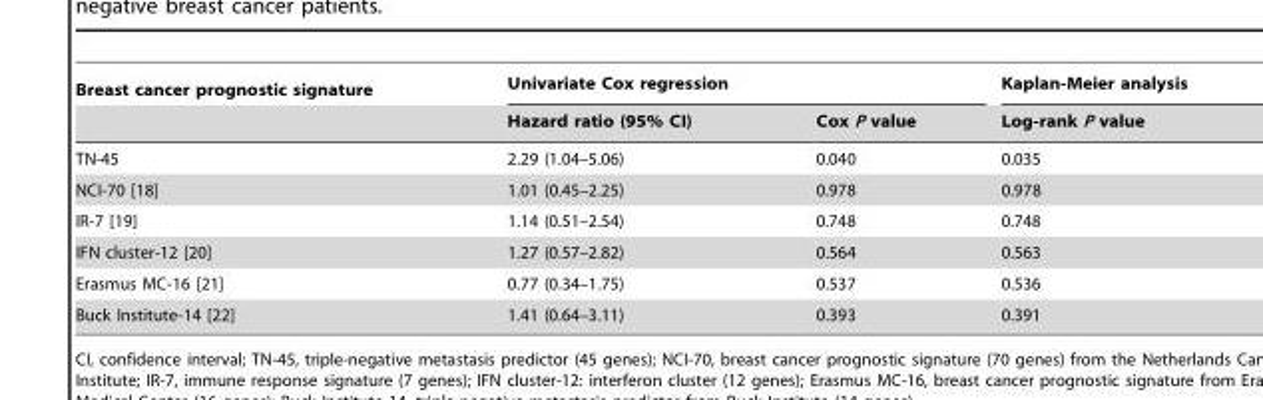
<table><thead><tr><td rowspan="2">Breast cancer prognostic signature</td><td colspan="2">Univariate Cox regression</td><td rowspan="2">Kaplan-Meier analysis Log-rank P value</td></tr><tr><td>Hazard ratio (95% CI)</td><td>Cox P value</td></tr></thead><tbody><tr><td>TN-45</td><td>2.29 (1.04–5.06)</td><td>0.040</td><td>0.035</td></tr><tr><td>NCI-70 [18]</td><td>1.01 (0.45–2.25)</td><td>0.978</td><td>0.978</td></tr><tr><td>IR-7 [19]</td><td>1.14 (0.51–2.54)</td><td>0.748</td><td>0.748</td></tr><tr><td>IFN cluster-12 [20]</td><td>1.27 (0.57–2.82)</td><td>0.564</td><td>0.563</td></tr><tr><td>Erasmus MC-16 [21]</td><td>0.77 (0.34–1.75)</td><td>0.537</td><td>0.536</td></tr><tr><td>Buck Institute-14 [22]</td><td>1.41 (0.64–3.11)</td><td>0.393</td><td>0.391</td></tr></tbody></table>